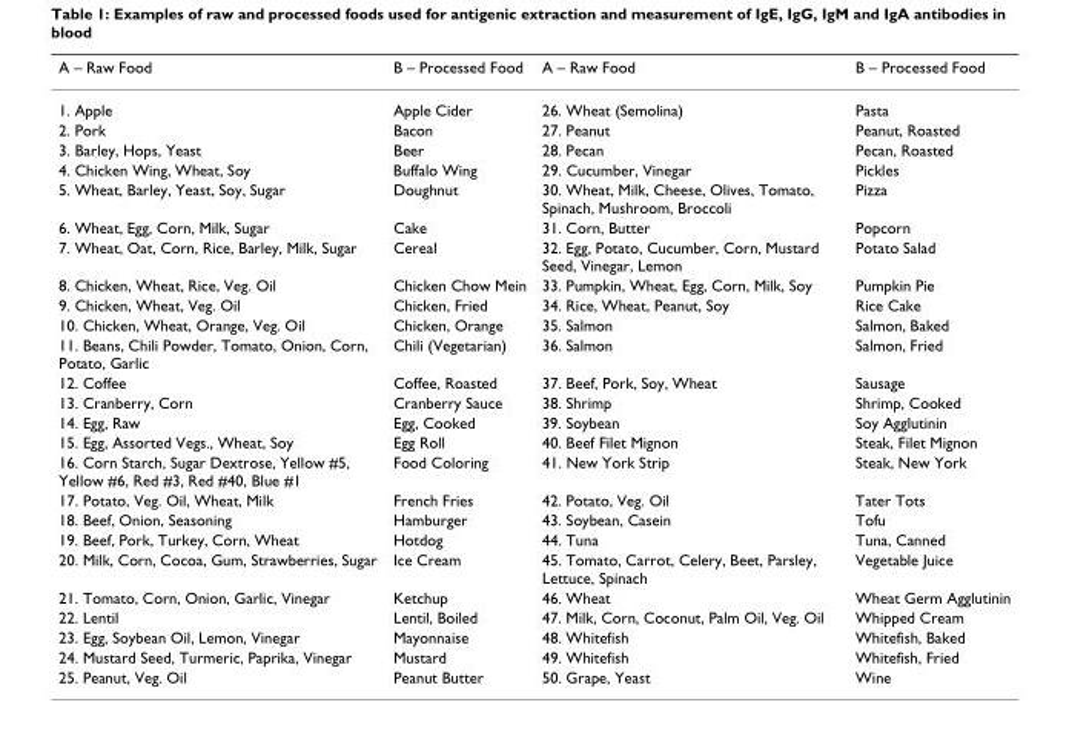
<table><thead><tr><td>A – Raw Food</td><td>B – Processed Food</td><td>A – Raw Food</td><td>B – Processed Food</td></tr></thead><tbody><tr><td>1. Apple</td><td>Apple Cider</td><td>26. Wheat (Semolina)</td><td>Pasta</td></tr><tr><td>2. Pork</td><td>Bacon</td><td>27. Peanut</td><td>Peanut, Roasted</td></tr><tr><td>3. Barley, Hops, Yeast</td><td>Beer</td><td>28. Pecan</td><td>Pecan, Roasted</td></tr><tr><td>4. Chicken Wing, Wheat, Soy</td><td>Buffalo Wing</td><td>29. Cucumber, Vinegar</td><td>Pickles</td></tr><tr><td>5. Wheat, Barley, Yeast, Soy, Sugar</td><td>Doughnut</td><td>30. Wheat, Milk, Cheese, Olives, Tomato, Spinach, Mushroom, Broccoli</td><td>Pizza</td></tr><tr><td>6. Wheat, Egg, Corn, Milk, Sugar</td><td>Cake</td><td>31. Corn, Butter</td><td>Popcorn</td></tr><tr><td>7. Wheat, Oat, Corn, Rice, Barley, Milk, Sugar</td><td>Cereal</td><td>32. Egg, Potato, Cucumber, Corn, Mustard Seed, Vinegar, Lemon</td><td>Potato Salad</td></tr><tr><td>8. Chicken, Wheat, Rice, Veg. Oil</td><td>Chicken Chow Mein</td><td>33. Pumpkin, Wheat, Egg, Corn, Milk, Soy</td><td>Pumpkin Pie</td></tr><tr><td>9. Chicken, Wheat, Veg. Oil</td><td>Chicken, Fried</td><td>34. Rice, Wheat, Peanut, Soy</td><td>Rice Cake</td></tr><tr><td>10. Chicken, Wheat, Orange, Veg. Oil</td><td>Chicken, Orange</td><td>35. Salmon</td><td>Salmon, Baked</td></tr><tr><td>11. Beans, Chili Powder, Tomato, Onion, Corn, Potato, Garlic</td><td>Chili (Vegetarian)</td><td>36. Salmon</td><td>Salmon, Fried</td></tr><tr><td>12. Coffee</td><td>Coffee, Roasted</td><td>37. Beef, Pork, Soy, Wheat</td><td>Sausage</td></tr><tr><td>13. Cranberry, Corn</td><td>Cranberry Sauce</td><td>38. Shrimp</td><td>Shrimp, Cooked</td></tr><tr><td>14. Egg, Raw</td><td>Egg, Cooked</td><td>39. Soybean</td><td>Soy Agglutinin</td></tr><tr><td>15. Egg, Assorted Vegs., Wheat, Soy</td><td>Egg Roll</td><td>40. Beef Filet Mignon</td><td>Steak, Filet Mignon</td></tr><tr><td>16. Corn Starch, Sugar Dextrose, Yellow #5, Yellow #6, Red #3, Red #40, Blue #1</td><td>Food Coloring</td><td>41. New York Strip</td><td>Steak, New York</td></tr><tr><td>17. Potato, Veg. Oil, Wheat, Milk</td><td>French Fries</td><td>42. Potato, Veg. Oil</td><td>Tater Tots</td></tr><tr><td>18. Beef, Onion, Seasoning</td><td>Hamburger</td><td>43. Soybean, Casein</td><td>Tofu</td></tr><tr><td>19. Beef, Pork, Turkey, Corn, Wheat</td><td>Hotdog</td><td>44. Tuna</td><td>Tuna, Canned</td></tr><tr><td>20. Milk, Corn, Cocoa, Gum, Strawberries, Sugar</td><td>Ice Cream</td><td>45. Tomato, Carrot, Celery, Beet, Parsley, Lettuce, Spinach</td><td>Vegetable Juice</td></tr><tr><td>21. Tomato, Corn, Onion, Garlic, Vinegar</td><td>Ketchup</td><td>46. Wheat</td><td>Wheat Germ Agglutinin</td></tr><tr><td>22. Lentil</td><td>Lentil, Boiled</td><td>47. Milk, Corn, Coconut, Palm Oil, Veg. Oil</td><td>Whipped Cream</td></tr><tr><td>23. Egg, Soybean Oil, Lemon, Vinegar</td><td>Mayonnaise</td><td>48. Whitefish</td><td>Whitefish, Baked</td></tr><tr><td>24. Mustard Seed, Turmeric, Paprika, Vinegar</td><td>Mustard</td><td>49. Whitefish</td><td>Whitefish, Fried</td></tr><tr><td>25. Peanut, Veg. Oil</td><td>Peanut Butter</td><td>50. Grape, Yeast</td><td>Wine</td></tr></tbody></table>